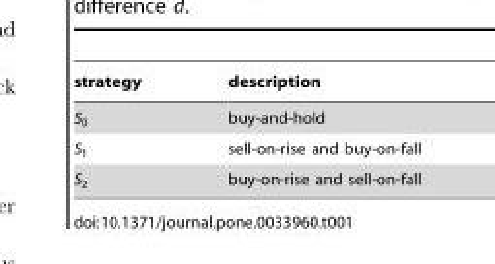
<table><thead><tr><td>strategy</td><td>description</td></tr></thead><tbody><tr><td>S<sub>0</sub></td><td>buy-and-hold</td></tr><tr><td>S<sub>1</sub></td><td>sell-on-rise and buy-on-fall</td></tr><tr><td>S<sub>2</sub></td><td>buy-on-rise and sell-on-fall</td></tr></tbody></table>